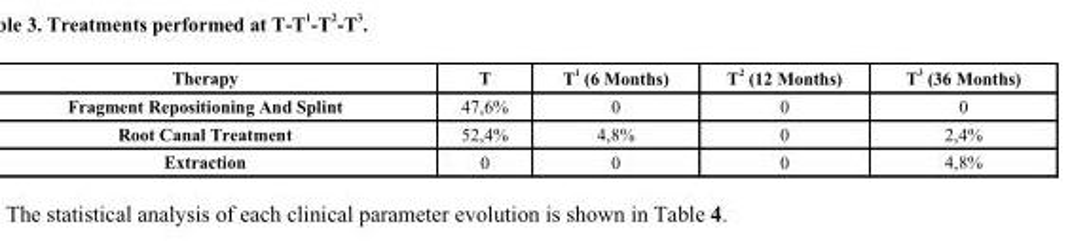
<table><thead><tr><td>Therapy</td><td>T</td><td>T <sup>1</sup> (6 Months)</td><td>T <sup>2</sup> (12 Months)</td><td>T <sup>3</sup> (36 Months)</td></tr></thead><tbody><tr><td>Fragment Repositioning And Splint</td><td>47,6%</td><td>0</td><td>0</td><td>0</td></tr><tr><td>Root Canal Treatment</td><td>52,4%</td><td>4,8%</td><td>0</td><td>2,4%</td></tr><tr><td>Extraction</td><td>0</td><td>0</td><td>0</td><td>4,8%</td></tr></tbody></table>